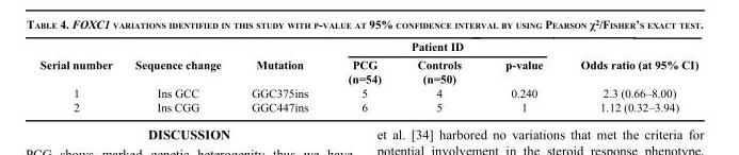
<table><thead><tr><td rowspan="2">Serial number</td><td rowspan="2">Sequence change</td><td rowspan="2">Mutation</td><td colspan="3">Patient ID</td><td rowspan="2">Odds ratio (at 95% CI)</td></tr><tr><td>PCG (n=54)</td><td>Controls (n=50)</td><td>p-value</td></tr></thead><tbody><tr><td>1</td><td>Ins GCC</td><td>GGC375ins</td><td>5</td><td>4</td><td>0.240</td><td>2.3 (0.66–8.00)</td></tr><tr><td>2</td><td>Ins CGG</td><td>GGC447ins</td><td>6</td><td>5</td><td>1</td><td>1.12 (0.32–3.94)</td></tr></tbody></table>